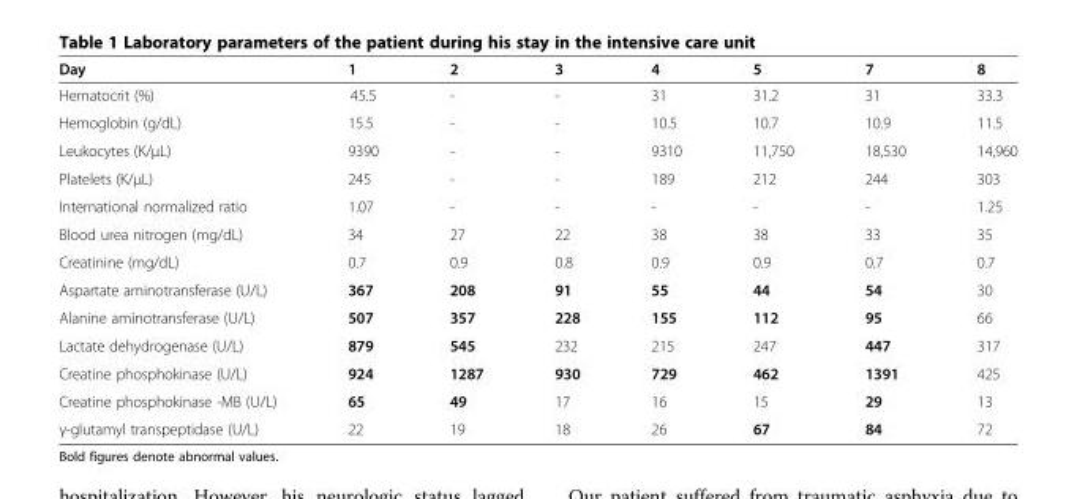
<table><thead><tr><td>Day</td><td>1</td><td>2</td><td>3</td><td>4</td><td>5</td><td>7</td><td>8</td></tr></thead><tbody><tr><td>Hematocrit (%)</td><td>45.5</td><td>-</td><td>-</td><td>31</td><td>31.2</td><td>31</td><td>33.3</td></tr><tr><td>Hemoglobin (g/dL)</td><td>15.5</td><td>-</td><td>-</td><td>10.5</td><td>10.7</td><td>10.9</td><td>11.5</td></tr><tr><td>Leukocytes (K/μL)</td><td>9390</td><td>-</td><td>-</td><td>9310</td><td>11,750</td><td>18,530</td><td>14,960</td></tr><tr><td>Platelets (K/μL)</td><td>245</td><td>-</td><td>-</td><td>189</td><td>212</td><td>244</td><td>303</td></tr><tr><td>International normalized ratio</td><td>1.07</td><td>-</td><td>-</td><td>-</td><td>-</td><td>-</td><td>1.25</td></tr><tr><td>Blood urea nitrogen (mg/dL)</td><td>34</td><td>27</td><td>22</td><td>38</td><td>38</td><td>33</td><td>35</td></tr><tr><td>Creatinine (mg/dL)</td><td>0.7</td><td>0.9</td><td>0.8</td><td>0.9</td><td>0.9</td><td>0.7</td><td>0.7</td></tr><tr><td>Aspartate aminotransferase (U/L)</td><td>367</td><td>208</td><td>91</td><td>55</td><td>44</td><td>54</td><td>30</td></tr><tr><td>Alanine aminotransferase (U/L)</td><td>507</td><td>357</td><td>228</td><td>155</td><td>112</td><td>95</td><td>66</td></tr><tr><td>Lactate dehydrogenase (U/L)</td><td>879</td><td>545</td><td>232</td><td>215</td><td>247</td><td>447</td><td>317</td></tr><tr><td>Creatine phosphokinase (U/L)</td><td>924</td><td>1287</td><td>930</td><td>729</td><td>462</td><td>1391</td><td>425</td></tr><tr><td>Creatine phosphokinase -MB (U/L)</td><td>65</td><td>49</td><td>17</td><td>16</td><td>15</td><td>29</td><td>13</td></tr><tr><td>γ-glutamyl transpeptidase (U/L)</td><td>22</td><td>19</td><td>18</td><td>26</td><td>67</td><td>84</td><td>72</td></tr></tbody></table>